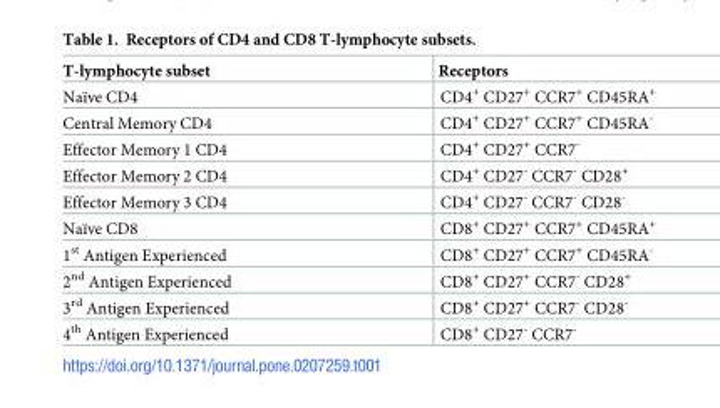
<table><thead><tr><td>T-lymphocyte subset</td><td>Receptors</td></tr></thead><tbody><tr><td>Naïve CD4</td><td>CD4<sup>+</sup> CD27<sup>+</sup> CCR7<sup>+</sup> CD45RA<sup>+</sup></td></tr><tr><td>Central Memory CD4</td><td>CD4<sup>+</sup> CD27<sup>+</sup> CCR7<sup>+</sup> CD45RA<sup>-</sup></td></tr><tr><td>Effector Memory 1 CD4</td><td>CD4<sup>+</sup> CD27<sup>+</sup> CCR7<sup>-</sup></td></tr><tr><td>Effector Memory 2 CD4</td><td>CD4<sup>+</sup> CD27<sup>-</sup> CCR7<sup>-</sup> CD28<sup>+</sup></td></tr><tr><td>Effector Memory 3 CD4</td><td>CD4<sup>+</sup> CD27<sup>-</sup> CCR7<sup>-</sup> CD28<sup>-</sup></td></tr><tr><td>Naïve CD8</td><td>CD8<sup>+</sup> CD27<sup>+</sup> CCR7<sup>+</sup> CD45RA<sup>+</sup></td></tr><tr><td>1<sup>st</sup> Antigen Experienced</td><td>CD8<sup>+</sup> CD27<sup>+</sup> CCR7<sup>+</sup> CD45RA<sup>-</sup></td></tr><tr><td>2<sup>nd</sup> Antigen Experienced</td><td>CD8<sup>+</sup> CD27<sup>+</sup> CCR7<sup>-</sup> CD28<sup>+</sup></td></tr><tr><td>3<sup>rd</sup> Antigen Experienced</td><td>CD8<sup>+</sup> CD27<sup>+</sup> CCR7<sup>-</sup> CD28<sup>-</sup></td></tr><tr><td>4<sup>th</sup> Antigen Experienced</td><td>CD8<sup>+</sup> CD27<sup>-</sup> CCR7<sup>-</sup></td></tr></tbody></table>